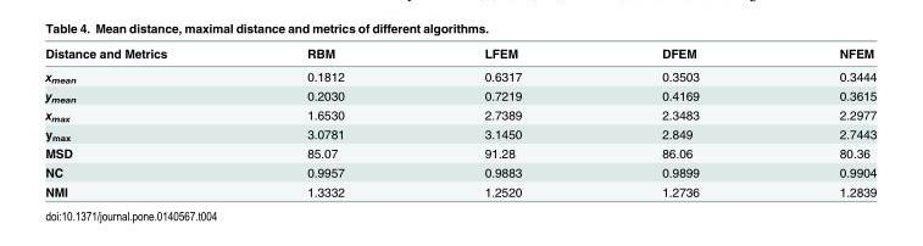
<table><thead><tr><td>Distance and Metrics</td><td>RBM</td><td>LFEM</td><td>DFEM</td><td>NFEM</td></tr></thead><tbody><tr><td>x<sub>mean</sub></td><td>0.1812</td><td>0.6317</td><td>0.3503</td><td>0.3444</td></tr><tr><td>y<sub>mean</sub></td><td>0.2030</td><td>0.7219</td><td>0.4169</td><td>0.3615</td></tr><tr><td>x<sub>max</sub></td><td>1.6530</td><td>2.7389</td><td>2.3483</td><td>2.2977</td></tr><tr><td>y<sub>max</sub></td><td>3.0781</td><td>3.1450</td><td>2.849</td><td>2.7443</td></tr><tr><td>MSD</td><td>85.07</td><td>91.28</td><td>86.06</td><td>80.36</td></tr><tr><td>NC</td><td>0.9957</td><td>0.9883</td><td>0.9899</td><td>0.9904</td></tr><tr><td>NMI</td><td>1.3332</td><td>1.2520</td><td>1.2736</td><td>1.2839</td></tr></tbody></table>